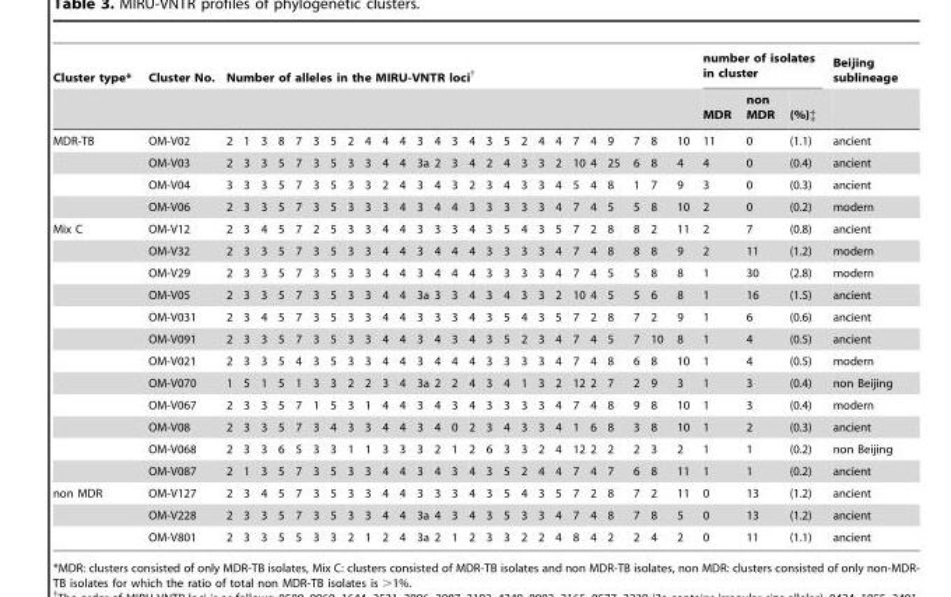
<table><thead><tr><td rowspan="2">Cluster type*</td><td rowspan="2">Cluster No.</td><td colspan="26">Number of alleles in the MIRU-VNTR loci†</td><td colspan="3">number of isolates in cluster</td><td rowspan="2">Beijing sublineage</td></tr><tr><td></td><td></td><td></td><td></td><td></td><td></td><td></td><td></td><td></td><td></td><td></td><td></td><td></td><td></td><td></td><td></td><td></td><td></td><td></td><td></td><td></td><td></td><td></td><td></td><td></td><td></td><td>MDR</td><td>non MDR</td><td>(%)‡</td></tr></thead><tbody><tr><td rowspan="4">MDR-TB</td><td>OM-V02</td><td>2</td><td>1</td><td>3</td><td>8</td><td>7</td><td>3</td><td>5</td><td>2</td><td>4</td><td>4</td><td>4</td><td>3</td><td>4</td><td>3</td><td>4</td><td>3</td><td>5</td><td>2</td><td>4</td><td>4</td><td>7</td><td>4</td><td>9</td><td>7</td><td>8</td><td>10</td><td>11</td><td>0</td><td>(1.1)</td><td>ancient</td></tr><tr><td>OM-V03</td><td>2</td><td>3</td><td>3</td><td>5</td><td>7</td><td>3</td><td>5</td><td>3</td><td>3</td><td>4</td><td>4</td><td>3a</td><td>2</td><td>3</td><td>4</td><td>2</td><td>4</td><td>3</td><td>3</td><td>2</td><td>10</td><td>4</td><td>25</td><td>6</td><td>8</td><td>4</td><td>4</td><td>0</td><td>(0.4)</td><td>ancient</td></tr><tr><td>OM-V04</td><td>3</td><td>3</td><td>3</td><td>5</td><td>7</td><td>3</td><td>5</td><td>3</td><td>3</td><td>2</td><td>4</td><td>3</td><td>4</td><td>3</td><td>2</td><td>3</td><td>4</td><td>3</td><td>3</td><td>4</td><td>5</td><td>4</td><td>8</td><td>1</td><td>7</td><td>9</td><td>3</td><td>0</td><td>(0.3)</td><td>ancient</td></tr><tr><td>OM-V06</td><td>2</td><td>3</td><td>3</td><td>5</td><td>7</td><td>3</td><td>5</td><td>3</td><td>3</td><td>3</td><td>4</td><td>3</td><td>4</td><td>4</td><td>3</td><td>3</td><td>3</td><td>3</td><td>3</td><td>4</td><td>7</td><td>4</td><td>5</td><td>5</td><td>8</td><td>10</td><td>2</td><td>0</td><td>(0.2)</td><td>modern</td></tr><tr><td rowspan="12">Mix C</td><td>OM-V12</td><td>2</td><td>3</td><td>4</td><td>5</td><td>7</td><td>2</td><td>5</td><td>3</td><td>3</td><td>4</td><td>4</td><td>3</td><td>3</td><td>3</td><td>4</td><td>3</td><td>5</td><td>4</td><td>3</td><td>5</td><td>7</td><td>2</td><td>8</td><td>8</td><td>2</td><td>11</td><td>2</td><td>7</td><td>(0.8)</td><td>ancient</td></tr><tr><td>OM-V32</td><td>2</td><td>3</td><td>3</td><td>5</td><td>7</td><td>3</td><td>5</td><td>3</td><td>3</td><td>4</td><td>4</td><td>3</td><td>4</td><td>4</td><td>4</td><td>3</td><td>3</td><td>3</td><td>3</td><td>4</td><td>7</td><td>4</td><td>8</td><td>8</td><td>8</td><td>9</td><td>2</td><td>11</td><td>(1.2)</td><td>modern</td></tr><tr><td>OM-V29</td><td>2</td><td>3</td><td>3</td><td>5</td><td>7</td><td>3</td><td>5</td><td>3</td><td>3</td><td>4</td><td>4</td><td>3</td><td>4</td><td>4</td><td>4</td><td>3</td><td>3</td><td>3</td><td>3</td><td>4</td><td>7</td><td>4</td><td>5</td><td>5</td><td>8</td><td>8</td><td>1</td><td>30</td><td>(2.8)</td><td>modern</td></tr><tr><td>OM-V05</td><td>2</td><td>3</td><td>3</td><td>5</td><td>7</td><td>3</td><td>5</td><td>3</td><td>3</td><td>4</td><td>4</td><td>3a</td><td>3</td><td>3</td><td>4</td><td>3</td><td>4</td><td>3</td><td>3</td><td>2</td><td>10</td><td>4</td><td>5</td><td>5</td><td>6</td><td>8</td><td>1</td><td>16</td><td>(1.5)</td><td>ancient</td></tr><tr><td>OM-V031</td><td>2</td><td>3</td><td>4</td><td>5</td><td>7</td><td>3</td><td>5</td><td>3</td><td>3</td><td>4</td><td>4</td><td>3</td><td>3</td><td>3</td><td>4</td><td>3</td><td>5</td><td>4</td><td>3</td><td>5</td><td>7</td><td>2</td><td>8</td><td>7</td><td>2</td><td>9</td><td>1</td><td>6</td><td>(0.6)</td><td>ancient</td></tr><tr><td>OM-V091</td><td>2</td><td>3</td><td>3</td><td>5</td><td>7</td><td>3</td><td>5</td><td>3</td><td>3</td><td>4</td><td>4</td><td>3</td><td>4</td><td>3</td><td>4</td><td>3</td><td>5</td><td>2</td><td>3</td><td>4</td><td>7</td><td>4</td><td>5</td><td>7</td><td>10</td><td>8</td><td>1</td><td>4</td><td>(0.5)</td><td>ancient</td></tr><tr><td>OM-V021</td><td>2</td><td>3</td><td>3</td><td>5</td><td>4</td><td>3</td><td>5</td><td>3</td><td>3</td><td>4</td><td>4</td><td>3</td><td>4</td><td>4</td><td>4</td><td>3</td><td>3</td><td>3</td><td>3</td><td>4</td><td>7</td><td>4</td><td>8</td><td>6</td><td>8</td><td>10</td><td>1</td><td>4</td><td>(0.5)</td><td>modern</td></tr><tr><td>OM-V070</td><td>1</td><td>5</td><td>1</td><td>5</td><td>1</td><td>3</td><td>3</td><td>2</td><td>2</td><td>3</td><td>4</td><td>3a</td><td>2</td><td>2</td><td>4</td><td>3</td><td>4</td><td>1</td><td>3</td><td>2</td><td>12</td><td>2</td><td>7</td><td>2</td><td>9</td><td>3</td><td>1</td><td>3</td><td>(0.4)</td><td>non Beijing</td></tr><tr><td>OM-V067</td><td>2</td><td>3</td><td>3</td><td>5</td><td>7</td><td>1</td><td>5</td><td>3</td><td>1</td><td>4</td><td>4</td><td>3</td><td>4</td><td>3</td><td>4</td><td>3</td><td>3</td><td>3</td><td>3</td><td>4</td><td>7</td><td>4</td><td>8</td><td>9</td><td>8</td><td>10</td><td>1</td><td>3</td><td>(0.4)</td><td>modern</td></tr><tr><td>OM-V08</td><td>2</td><td>3</td><td>3</td><td>5</td><td>7</td><td>3</td><td>4</td><td>3</td><td>3</td><td>4</td><td>4</td><td>3</td><td>4</td><td>0</td><td>2</td><td>3</td><td>4</td><td>3</td><td>3</td><td>4</td><td>1</td><td>6</td><td>8</td><td>3</td><td>8</td><td>10</td><td>1</td><td>2</td><td>(0.3)</td><td>ancient</td></tr><tr><td>OM-V068</td><td>2</td><td>3</td><td>3</td><td>6</td><td>5</td><td>3</td><td>3</td><td>1</td><td>1</td><td>3</td><td>3</td><td>3</td><td>2</td><td>1</td><td>2</td><td>6</td><td>3</td><td>3</td><td>2</td><td>4</td><td>12</td><td>2</td><td>2</td><td>2</td><td>3</td><td>2</td><td>1</td><td>1</td><td>(0.2)</td><td>non Beijing</td></tr><tr><td>OM-V087</td><td>2</td><td>1</td><td>3</td><td>5</td><td>7</td><td>3</td><td>5</td><td>3</td><td>3</td><td>4</td><td>4</td><td>3</td><td>4</td><td>3</td><td>4</td><td>3</td><td>5</td><td>2</td><td>4</td><td>4</td><td>7</td><td>4</td><td>7</td><td>6</td><td>8</td><td>11</td><td>1</td><td>1</td><td>(0.2)</td><td>ancient</td></tr><tr><td rowspan="3">non MDR</td><td>OM-V127</td><td>2</td><td>3</td><td>4</td><td>5</td><td>7</td><td>3</td><td>5</td><td>3</td><td>3</td><td>4</td><td>4</td><td>3</td><td>3</td><td>3</td><td>4</td><td>3</td><td>5</td><td>4</td><td>3</td><td>5</td><td>7</td><td>2</td><td>8</td><td>7</td><td>2</td><td>11</td><td>0</td><td>13</td><td>(1.2)</td><td>ancient</td></tr><tr><td>OM-V228</td><td>2</td><td>3</td><td>3</td><td>5</td><td>7</td><td>3</td><td>5</td><td>3</td><td>3</td><td>4</td><td>4</td><td>3a</td><td>4</td><td>3</td><td>4</td><td>3</td><td>5</td><td>3</td><td>3</td><td>4</td><td>7</td><td>4</td><td>8</td><td>7</td><td>8</td><td>5</td><td>0</td><td>13</td><td>(1.2)</td><td>ancient</td></tr><tr><td>OM-V801</td><td>2</td><td>3</td><td>3</td><td>5</td><td>5</td><td>3</td><td>3</td><td>2</td><td>1</td><td>2</td><td>4</td><td>3a</td><td>2</td><td>1</td><td>2</td><td>3</td><td>3</td><td>2</td><td>2</td><td>4</td><td>8</td><td>4</td><td>2</td><td>2</td><td>4</td><td>2</td><td>0</td><td>11</td><td>(1.1)</td><td>ancient</td></tr></tbody></table>